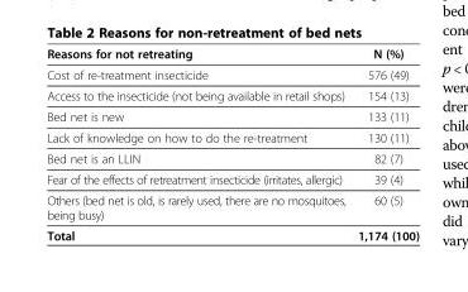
<table><thead><tr><td>Reasons for not retreating</td><td>N (%)</td></tr></thead><tbody><tr><td>Cost of re-treatment insecticide</td><td>576 (49)</td></tr><tr><td>Access to the insecticide (not being available in retail shops)</td><td>154 (13)</td></tr><tr><td>Bed net is new</td><td>133 (11)</td></tr><tr><td>Lack of knowledge on how to do the re-treatment</td><td>130 (11)</td></tr><tr><td>Bed net is an LLIN</td><td>82 (7)</td></tr><tr><td>Fear of the effects of retreatment insecticide (irritates, allergic)</td><td>39 (4)</td></tr><tr><td>Others (bed net is old, is rarely used, there are no mosquitoes, being busy)</td><td>60 (5)</td></tr><tr><td>Total</td><td>1,174 (100)</td></tr></tbody></table>